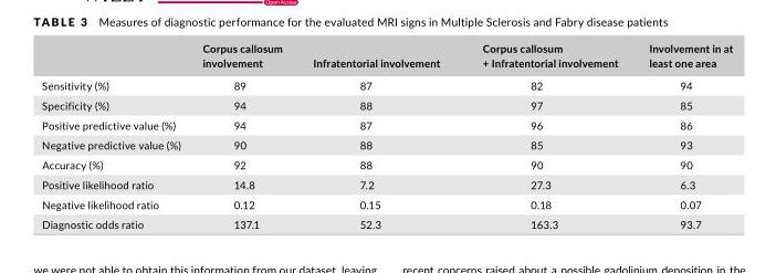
<table><thead><tr><td></td><td>Corpus callosum involvement</td><td>Infratentorial involvement</td><td>Corpus callosum + Infratentorial involvement</td><td>Involvement in at least one area</td></tr></thead><tbody><tr><td>Sensitivity (%)</td><td>89</td><td>87</td><td>82</td><td>94</td></tr><tr><td>Specificity (%)</td><td>94</td><td>88</td><td>97</td><td>85</td></tr><tr><td>Positive predictive value (%)</td><td>94</td><td>87</td><td>96</td><td>86</td></tr><tr><td>Negative predictive value (%)</td><td>90</td><td>88</td><td>85</td><td>93</td></tr><tr><td>Accuracy (%)</td><td>92</td><td>88</td><td>90</td><td>90</td></tr><tr><td>Positive likelihood ratio</td><td>14.8</td><td>7.2</td><td>27.3</td><td>6.3</td></tr><tr><td>Negative likelihood ratio</td><td>0.12</td><td>0.15</td><td>0.18</td><td>0.07</td></tr><tr><td>Diagnostic odds ratio</td><td>137.1</td><td>52.3</td><td>163.3</td><td>93.7</td></tr></tbody></table>